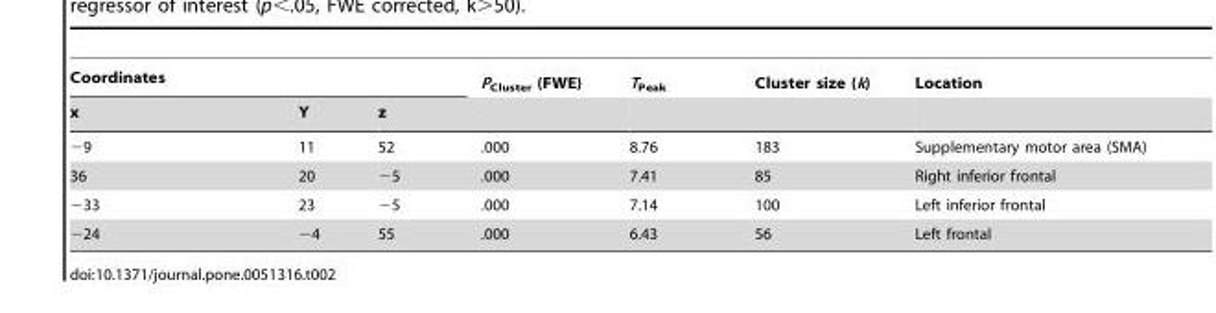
<table><thead><tr><td colspan="3">Coordinates</td><td rowspan="2">P<sub>Cluster</sub> (FWE)</td><td rowspan="2">T<sub>Peak</sub></td><td rowspan="2">Cluster size (k)</td><td rowspan="2">Location</td></tr><tr><td>x</td><td>Y</td><td>z</td></tr></thead><tbody><tr><td>−9</td><td>11</td><td>52</td><td>.000</td><td>8.76</td><td>183</td><td>Supplementary motor area (SMA)</td></tr><tr><td>36</td><td>20</td><td>−5</td><td>.000</td><td>7.41</td><td>85</td><td>Right inferior frontal</td></tr><tr><td>−33</td><td>23</td><td>−5</td><td>.000</td><td>7.14</td><td>100</td><td>Left inferior frontal</td></tr><tr><td>−24</td><td>−4</td><td>55</td><td>.000</td><td>6.43</td><td>56</td><td>Left frontal</td></tr></tbody></table>